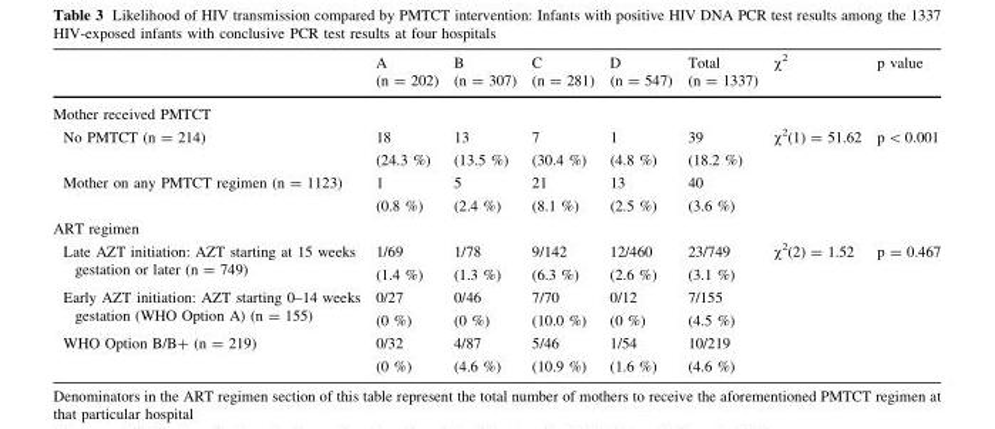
<table><thead><tr><td></td><td>A (n = 202)</td><td>B (n = 307)</td><td>C (n = 281)</td><td>D (n = 547)</td><td>Total (n = 1337)</td><td>χ<sup>2</sup></td><td>p value</td></tr></thead><tbody><tr><td colspan="8">Mother received PMTCT</td></tr><tr><td>No PMTCT (n = 214)</td><td>18 (24.3 %)</td><td>13 (13.5 %)</td><td>7 (30.4 %)</td><td>1 (4.8 %)</td><td>39 (18.2 %)</td><td rowspan="2">χ<sup>2</sup>(1) = 51.62</td><td rowspan="2">p &lt; 0.001</td></tr><tr><td>Mother on any PMTCT regimen (n = 1123)</td><td>1 (0.8 %)</td><td>5 (2.4 %)</td><td>21 (8.1 %)</td><td>13 (2.5 %)</td><td>40 (3.6 %)</td></tr><tr><td colspan="8">ART regimen</td></tr><tr><td>Late AZT initiation: AZT starting at 15 weeks gestation or later (n = 749)</td><td>1/69 (1.4 %)</td><td>1/78 (1.3 %)</td><td>9/142 (6.3 %)</td><td>12/460 (2.6 %)</td><td>23/749 (3.1 %)</td><td rowspan="3">χ<sup>2</sup>(2) = 1.52</td><td rowspan="3">p = 0.467</td></tr><tr><td>Early AZT initiation: AZT starting 0–14 weeks gestation (WHO Option A) (n = 155)</td><td>0/27 (0 %)</td><td>0/46 (0 %)</td><td>7/70 (10.0 %)</td><td>0/12 (0 %)</td><td>7/155 (4.5 %)</td></tr><tr><td>WHO Option B/B+ (n = 219)</td><td>0/32 (0 %)</td><td>4/87 (4.6 %)</td><td>5/46 (10.9 %)</td><td>1/54 (1.6 %)</td><td>10/219 (4.6 %)</td></tr></tbody></table>